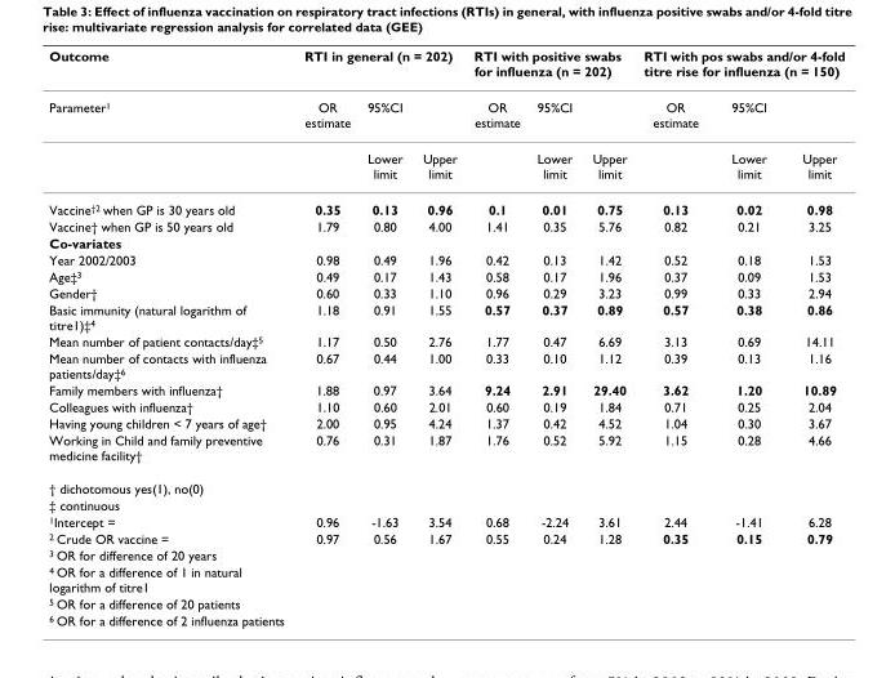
<table><thead><tr><td rowspan="2">Outcome Parameter1</td><td colspan="3">RTI in general (n = 202)</td><td colspan="3">RTI with positive swabs for influenza (n = 202)</td><td colspan="3">RTI with pos swabs and/or 4-fold titre rise for influenza (n = 150)</td></tr><tr><td>OR estimate</td><td>95%CI</td><td></td><td>OR estimate</td><td>95%CI</td><td></td><td>OR estimate</td><td>95%CI</td><td></td></tr></thead><tbody><tr><td></td><td></td><td>Lower limit</td><td>Upper limit</td><td></td><td>Lower limit</td><td>Upper limit</td><td></td><td>Lower limit</td><td>Upper limit</td></tr><tr><td>Vaccine†2 when GP is 30 years old</td><td>0.35</td><td>0.13</td><td>0.96</td><td>0.1</td><td>0.01</td><td>0.75</td><td>0.13</td><td>0.02</td><td>0.98</td></tr><tr><td>Vaccine† when GP is 50 years old</td><td>1.79</td><td>0.80</td><td>4.00</td><td>1.41</td><td>0.35</td><td>5.76</td><td>0.82</td><td>0.21</td><td>3.25</td></tr><tr><td colspan="10">Co-variates</td></tr><tr><td>Year 2002/2003</td><td>0.98</td><td>0.49</td><td>1.96</td><td>0.42</td><td>0.13</td><td>1.42</td><td>0.52</td><td>0.18</td><td>1.53</td></tr><tr><td>Age‡3</td><td>0.49</td><td>0.17</td><td>1.43</td><td>0.58</td><td>0.17</td><td>1.96</td><td>0.37</td><td>0.09</td><td>1.53</td></tr><tr><td>Gender†</td><td>0.60</td><td>0.33</td><td>1.10</td><td>0.96</td><td>0.29</td><td>3.23</td><td>0.99</td><td>0.33</td><td>2.94</td></tr><tr><td>Basic immunity (natural logarithm of titre1)‡4</td><td>1.18</td><td>0.91</td><td>1.55</td><td>0.57</td><td>0.37</td><td>0.89</td><td>0.57</td><td>0.38</td><td>0.86</td></tr><tr><td>Mean number of patient contacts/day‡5</td><td>1.17</td><td>0.50</td><td>2.76</td><td>1.77</td><td>0.47</td><td>6.69</td><td>3.13</td><td>0.69</td><td>14.11</td></tr><tr><td>Mean number of contacts with influenza patients/day‡6</td><td>0.67</td><td>0.44</td><td>1.00</td><td>0.33</td><td>0.10</td><td>1.12</td><td>0.39</td><td>0.13</td><td>1.16</td></tr><tr><td>Family members with influenza†</td><td>1.88</td><td>0.97</td><td>3.64</td><td>9.24</td><td>2.91</td><td>29.40</td><td>3.62</td><td>1.20</td><td>10.89</td></tr><tr><td>Colleagues with influenza†</td><td>1.10</td><td>0.60</td><td>2.01</td><td>0.60</td><td>0.19</td><td>1.84</td><td>0.71</td><td>0.25</td><td>2.04</td></tr><tr><td>Having young children &lt; 7 years of age†</td><td>2.00</td><td>0.95</td><td>4.24</td><td>1.37</td><td>0.42</td><td>4.52</td><td>1.04</td><td>0.30</td><td>3.67</td></tr><tr><td>Working in Child and family preventive medicine facility†</td><td>0.76</td><td>0.31</td><td>1.87</td><td>1.76</td><td>0.52</td><td>5.92</td><td>1.15</td><td>0.28</td><td>4.66</td></tr><tr><td colspan="10">† dichotomous yes(1), no(0)</td></tr><tr><td colspan="10">‡ continuous</td></tr><tr><td>1Intercept =</td><td>0.96</td><td>-1.63</td><td>3.54</td><td>0.68</td><td>-2.24</td><td>3.61</td><td>2.44</td><td>-1.41</td><td>6.28</td></tr><tr><td>2 Crude OR vaccine =</td><td>0.97</td><td>0.56</td><td>1.67</td><td>0.55</td><td>0.24</td><td>1.28</td><td>0.35</td><td>0.15</td><td>0.79</td></tr><tr><td colspan="10">3 OR for difference of 20 years</td></tr><tr><td colspan="10">4 OR for a difference of 1 in natural logarithm of titre1</td></tr><tr><td colspan="10">5 OR for a difference of 20 patients</td></tr><tr><td>6 OR for a difference of 2 influenza patients</td><td></td><td></td><td></td><td></td><td></td><td></td><td></td><td></td><td></td></tr></tbody></table>